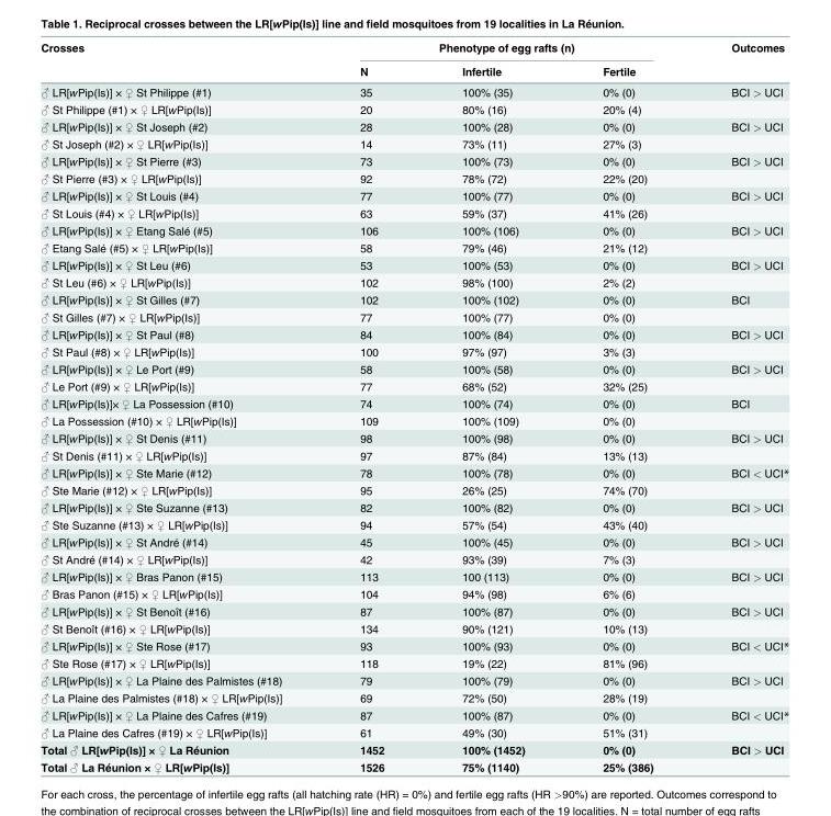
<table><thead><tr><td rowspan="2">Crosses</td><td colspan="3">Phenotype of egg rafts (n)</td><td rowspan="2">Outcomes</td></tr><tr><td>N</td><td>Infertile</td><td>Fertile</td></tr></thead><tbody><tr><td>♂ LR[wPip(Is)] × ♀ St Philippe (#1)</td><td>35</td><td>100% (35)</td><td>0% (0)</td><td>BCI &gt; UCI</td></tr><tr><td>♂ St Philippe (#1) × ♀ LR[wPip(Is)]</td><td>20</td><td>80% (16)</td><td>20% (4)</td><td></td></tr><tr><td>♂ LR[wPip(Is)] × ♀ St Joseph (#2)</td><td>28</td><td>100% (28)</td><td>0% (0)</td><td>BCI &gt; UCI</td></tr><tr><td>♂ St Joseph (#2) × ♀ LR[wPip(Is)]</td><td>14</td><td>73% (11)</td><td>27% (3)</td><td></td></tr><tr><td>♂ LR[wPip(Is)] × ♀ St Pierre (#3)</td><td>73</td><td>100% (73)</td><td>0% (0)</td><td>BCI &gt; UCI</td></tr><tr><td>♂ St Pierre (#3) × ♀ LR[wPip(Is)]</td><td>92</td><td>78% (72)</td><td>22% (20)</td><td></td></tr><tr><td>♂ LR[wPip(Is)] × ♀ St Louis (#4)</td><td>77</td><td>100% (77)</td><td>0% (0)</td><td>BCI &gt; UCI</td></tr><tr><td>♂ St Louis (#4) × ♀ LR[wPip(Is)]</td><td>63</td><td>59% (37)</td><td>41% (26)</td><td></td></tr><tr><td>♂ LR[wPip(Is)] × ♀ Etang Salé (#5)</td><td>106</td><td>100% (106)</td><td>0% (0)</td><td>BCI &gt; UCI</td></tr><tr><td>♂ Etang Salé (#5) × ♀ LR[wPip(Is)]</td><td>58</td><td>79% (46)</td><td>21% (12)</td><td></td></tr><tr><td>♂ LR[wPip(Is)] × ♀ St Leu (#6)</td><td>53</td><td>100% (53)</td><td>0% (0)</td><td>BCI &gt; UCI</td></tr><tr><td>♂ St Leu (#6) × ♀ LR[wPip(Is)]</td><td>102</td><td>98% (100)</td><td>2% (2)</td><td></td></tr><tr><td>♂ LR[wPip(Is)] × ♀ St Gilles (#7)</td><td>102</td><td>100% (102)</td><td>0% (0)</td><td>BCI</td></tr><tr><td>♂ St Gilles (#7) × ♀ LR[wPip(Is)]</td><td>77</td><td>100% (77)</td><td>0% (0)</td><td></td></tr><tr><td>♂ LR[wPip(Is)] × ♀ St Paul (#8)</td><td>84</td><td>100% (84)</td><td>0% (0)</td><td>BCI &gt; UCI</td></tr><tr><td>♂ St Paul (#8) × ♀ LR[wPip(Is)]</td><td>100</td><td>97% (97)</td><td>3% (3)</td><td></td></tr><tr><td>♂ LR[wPip(Is)] × ♀ Le Port (#9)</td><td>58</td><td>100% (58)</td><td>0% (0)</td><td>BCI &gt; UCI</td></tr><tr><td>♂ Le Port (#9) × ♀ LR[wPip(Is)]</td><td>77</td><td>68% (52)</td><td>32% (25)</td><td></td></tr><tr><td>♂ LR[wPip(Is)]× ♀ La Possession (#10)</td><td>74</td><td>100% (74)</td><td>0% (0)</td><td>BCI</td></tr><tr><td>♂ La Possession (#10) × ♀ LR[wPip(Is)]</td><td>109</td><td>100% (109)</td><td>0% (0)</td><td></td></tr><tr><td>♂ LR[wPip(Is)] × ♀ St Denis (#11)</td><td>98</td><td>100% (98)</td><td>0% (0)</td><td>BCI &gt; UCI</td></tr><tr><td>♂ St Denis (#11) × ♀ LR[wPip(Is)]</td><td>97</td><td>87% (84)</td><td>13% (13)</td><td></td></tr><tr><td>♂ LR[wPip(Is)] × ♀ Ste Marie (#12)</td><td>78</td><td>100% (78)</td><td>0% (0)</td><td>BCI &lt; UCI*</td></tr><tr><td>♂ Ste Marie (#12) × ♀ LR[wPip(Is)]</td><td>95</td><td>26% (25)</td><td>74% (70)</td><td></td></tr><tr><td>♂ LR[wPip(Is)] × ♀ Ste Suzanne (#13)</td><td>82</td><td>100% (82)</td><td>0% (0)</td><td>BCI &gt; UCI</td></tr><tr><td>♂ Ste Suzanne (#13) × ♀ LR[wPip(Is)]</td><td>94</td><td>57% (54)</td><td>43% (40)</td><td></td></tr><tr><td>♂ LR[wPip(Is)] × ♀ St André (#14)</td><td>45</td><td>100% (45)</td><td>0% (0)</td><td>BCI &gt; UCI</td></tr><tr><td>♂ St André (#14) × ♀ LR[wPip(Is)]</td><td>42</td><td>93% (39)</td><td>7% (3)</td><td></td></tr><tr><td>♂ LR[wPip(Is)] × ♀ Bras Panon (#15)</td><td>113</td><td>100 (113)</td><td>0% (0)</td><td>BCI &gt; UCI</td></tr><tr><td>♂ Bras Panon (#15) × ♀ LR[wPip(Is)]</td><td>104</td><td>94% (98)</td><td>6% (6)</td><td></td></tr><tr><td>♂ LR[wPip(Is)] × ♀ St Benoît (#16)</td><td>87</td><td>100% (87)</td><td>0% (0)</td><td>BCI &gt; UCI</td></tr><tr><td>♂ St Benoît (#16) × ♀ LR[wPip(Is)]</td><td>134</td><td>90% (121)</td><td>10% (13)</td><td></td></tr><tr><td>♂ LR[wPip(Is)] × ♀ Ste Rose (#17)</td><td>93</td><td>100% (93)</td><td>0% (0)</td><td>BCI &lt; UCI*</td></tr><tr><td>♂ Ste Rose (#17) × ♀ LR[wPip(Is)]</td><td>118</td><td>19% (22)</td><td>81% (96)</td><td></td></tr><tr><td>♂ LR[wPip(Is)] × ♀ La Plaine des Palmistes (#18)</td><td>79</td><td>100% (79)</td><td>0% (0)</td><td>BCI &gt; UCI</td></tr><tr><td>♂ La Plaine des Palmistes (#18) × ♀ LR[wPip(Is)]</td><td>69</td><td>72% (50)</td><td>28% (19)</td><td></td></tr><tr><td>♂ LR[wPip(Is)] × ♀ La Plaine des Cafres (#19)</td><td>87</td><td>100% (87)</td><td>0% (0)</td><td>BCI &lt; UCI*</td></tr><tr><td>♂ La Plaine des Cafres (#19) × ♀ LR[wPip(Is)]</td><td>61</td><td>49% (30)</td><td>51% (31)</td><td></td></tr><tr><td>Total ♂ LR[wPip(Is)] × ♀ La Réunion</td><td>1452</td><td>100% (1452)</td><td>0% (0)</td><td>BCI &gt; UCI</td></tr><tr><td>Total ♂ La Réunion × ♀ LR[wPip(Is)]</td><td>1526</td><td>75% (1140)</td><td>25% (386)</td><td></td></tr></tbody></table>